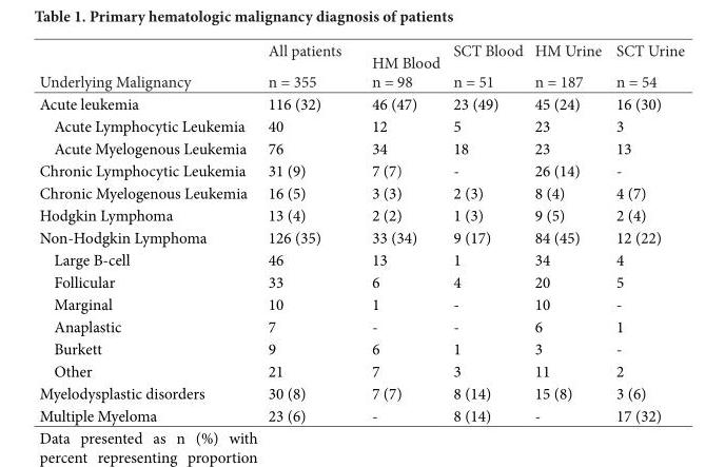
<table><thead><tr><td>Underlying Malignancy</td><td>All patients n = 355</td><td>HM Blood n = 98</td><td>SCT Blood n = 51</td><td>HM Urine n = 187</td><td>SCT Urine n = 54</td></tr></thead><tbody><tr><td>Acute leukemia</td><td>116 (32)</td><td>46 (47)</td><td>23 (49)</td><td>45 (24)</td><td>16 (30)</td></tr><tr><td>Acute Lymphocytic Leukemia</td><td>40</td><td>12</td><td>5</td><td>23</td><td>3</td></tr><tr><td>Acute Myelogenous Leukemia</td><td>76</td><td>34</td><td>18</td><td>23</td><td>13</td></tr><tr><td>Chronic Lymphocytic Leukemia</td><td>31 (9)</td><td>7 (7)</td><td>-</td><td>26 (14)</td><td>-</td></tr><tr><td>Chronic Myelogenous Leukemia</td><td>16 (5)</td><td>3 (3)</td><td>2 (3)</td><td>8 (4)</td><td>4 (7)</td></tr><tr><td>Hodgkin Lymphoma</td><td>13 (4)</td><td>2 (2)</td><td>1 (3)</td><td>9 (5)</td><td>2 (4)</td></tr><tr><td>Non-Hodgkin Lymphoma</td><td>126 (35)</td><td>33 (34)</td><td>9 (17)</td><td>84 (45)</td><td>12 (22)</td></tr><tr><td>Large B-cell</td><td>46</td><td>13</td><td>1</td><td>34</td><td>4</td></tr><tr><td>Follicular</td><td>33</td><td>6</td><td>4</td><td>20</td><td>5</td></tr><tr><td>Marginal</td><td>10</td><td>1</td><td>-</td><td>10</td><td>-</td></tr><tr><td>Anaplastic</td><td>7</td><td>-</td><td>-</td><td>6</td><td>1</td></tr><tr><td>Burkett</td><td>9</td><td>6</td><td>1</td><td>3</td><td>-</td></tr><tr><td>Other</td><td>21</td><td>7</td><td>3</td><td>11</td><td>2</td></tr><tr><td>Myelodysplastic disorders</td><td>30 (8)</td><td>7 (7)</td><td>8 (14)</td><td>15 (8)</td><td>3 (6)</td></tr><tr><td>Multiple Myeloma</td><td>23 (6)</td><td>-</td><td>8 (14)</td><td>-</td><td>17 (32)</td></tr></tbody></table>